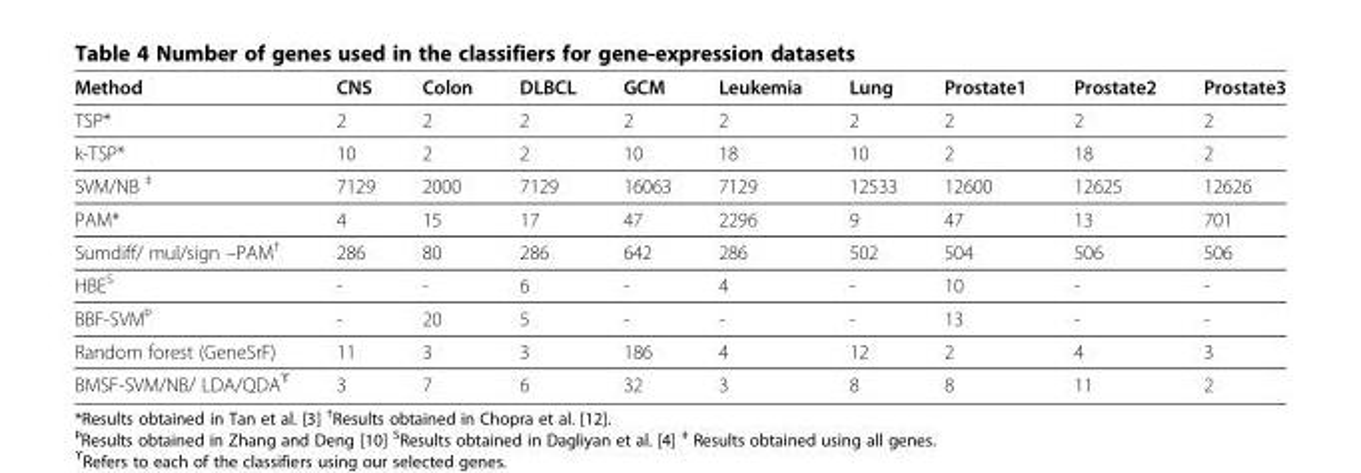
<table><thead><tr><td>Method</td><td>CNS</td><td>Colon</td><td>DLBCL</td><td>GCM</td><td>Leukemia</td><td>Lung</td><td>Prostate1</td><td>Prostate2</td><td>Prostate3</td></tr></thead><tbody><tr><td>TSP*</td><td>2</td><td>2</td><td>2</td><td>2</td><td>2</td><td>2</td><td>2</td><td>2</td><td>2</td></tr><tr><td>k-TSP*</td><td>10</td><td>2</td><td>2</td><td>10</td><td>18</td><td>10</td><td>2</td><td>18</td><td>2</td></tr><tr><td>SVM/NB <sup>‡</sup></td><td>7129</td><td>2000</td><td>7129</td><td>16063</td><td>7129</td><td>12533</td><td>12600</td><td>12625</td><td>12626</td></tr><tr><td>PAM*</td><td>4</td><td>15</td><td>17</td><td>47</td><td>2296</td><td>9</td><td>47</td><td>13</td><td>701</td></tr><tr><td>Sumdiff/ mul/sign –PAM<sup>†</sup></td><td>286</td><td>80</td><td>286</td><td>642</td><td>286</td><td>502</td><td>504</td><td>506</td><td>506</td></tr><tr><td>HBE<sup>Ѕ</sup></td><td>-</td><td>-</td><td>6</td><td>-</td><td>4</td><td>-</td><td>10</td><td>-</td><td>-</td></tr><tr><td>BBF-SVM<sup>Þ</sup></td><td>-</td><td>20</td><td>5</td><td>-</td><td>-</td><td>-</td><td>13</td><td>-</td><td>-</td></tr><tr><td>Random forest (GeneSrF)</td><td>11</td><td>3</td><td>3</td><td>186</td><td>4</td><td>12</td><td>2</td><td>4</td><td>3</td></tr><tr><td>BMSF-SVM/NB/ LDA/QDA<sup>ϒ</sup></td><td>3</td><td>7</td><td>6</td><td>32</td><td>3</td><td>8</td><td>8</td><td>11</td><td>2</td></tr></tbody></table>